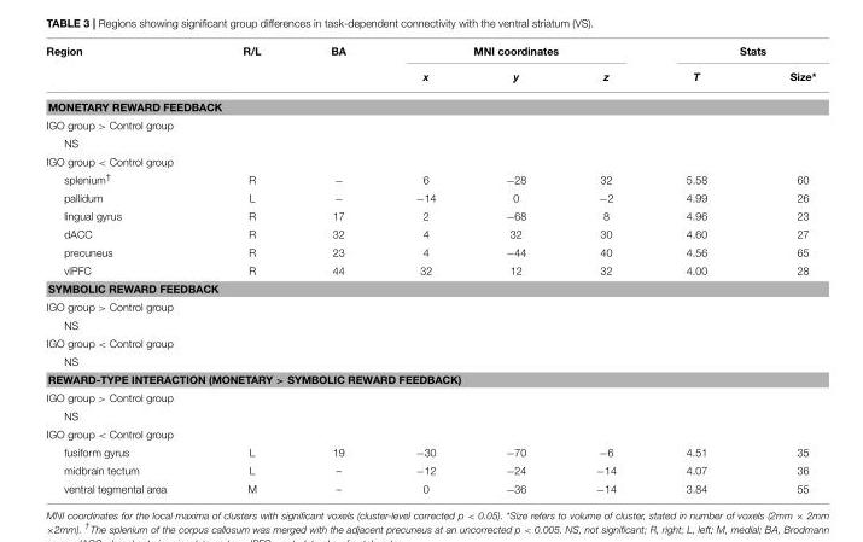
<table><thead><tr><td rowspan="2">Region</td><td rowspan="2">R/L</td><td rowspan="2">BA</td><td colspan="3">MNI coordinates</td><td colspan="2">Stats</td></tr><tr><td>x</td><td>y</td><td>z</td><td>T</td><td>Size*</td></tr></thead><tbody><tr><td colspan="8">MONETARY REWARD FEEDBACK</td></tr><tr><td colspan="8">IGO group &gt; Control group</td></tr><tr><td colspan="8">NS</td></tr><tr><td colspan="8">IGO group &lt; Control group</td></tr><tr><td>splenium<sup>†</sup></td><td>R</td><td>−</td><td>6</td><td>−28</td><td>32</td><td>5.58</td><td>60</td></tr><tr><td>pallidum</td><td>L</td><td>−</td><td>−14</td><td>0</td><td>−2</td><td>4.99</td><td>26</td></tr><tr><td>lingual gyrus</td><td>R</td><td>17</td><td>2</td><td>−68</td><td>8</td><td>4.96</td><td>23</td></tr><tr><td>dACC</td><td>R</td><td>32</td><td>4</td><td>32</td><td>30</td><td>4.60</td><td>27</td></tr><tr><td>precuneus</td><td>R</td><td>23</td><td>4</td><td>−44</td><td>40</td><td>4.56</td><td>65</td></tr><tr><td>vlPFC</td><td>R</td><td>44</td><td>32</td><td>12</td><td>32</td><td>4.00</td><td>28</td></tr><tr><td colspan="8">SYMBOLIC REWARD FEEDBACK</td></tr><tr><td colspan="8">IGO group &gt; Control group</td></tr><tr><td colspan="8">NS</td></tr><tr><td colspan="8">IGO group &lt; Control group</td></tr><tr><td colspan="8">NS</td></tr><tr><td colspan="8">REWARD-TYPE INTERACTION (MONETARY &gt; SYMBOLIC REWARD FEEDBACK)</td></tr><tr><td colspan="8">IGO group &gt; Control group</td></tr><tr><td colspan="8">NS</td></tr><tr><td colspan="8">IGO group &lt; Control group</td></tr><tr><td>fusiform gyrus</td><td>L</td><td>19</td><td>−30</td><td>−70</td><td>−6</td><td>4.51</td><td>35</td></tr><tr><td>midbrain tectum</td><td>L</td><td>–</td><td>−12</td><td>−24</td><td>−14</td><td>4.07</td><td>36</td></tr><tr><td>ventral tegmental area</td><td>M</td><td>–</td><td>0</td><td>−36</td><td>−14</td><td>3.84</td><td>55</td></tr></tbody></table>